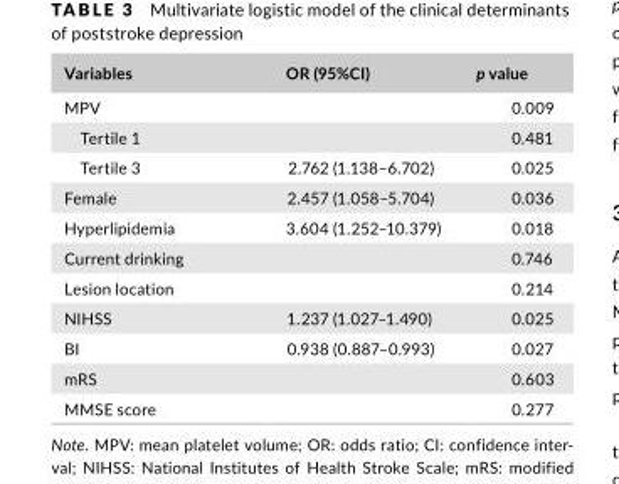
<table><thead><tr><td>Variables</td><td>OR (95%CI)</td><td>p value</td></tr></thead><tbody><tr><td>MPV</td><td></td><td>0.009</td></tr><tr><td>Tertile 1</td><td></td><td>0.481</td></tr><tr><td>Tertile 3</td><td>2.762 (1.138–6.702)</td><td>0.025</td></tr><tr><td>Female</td><td>2.457 (1.058–5.704)</td><td>0.036</td></tr><tr><td>Hyperlipidemia</td><td>3.604 (1.252–10.379)</td><td>0.018</td></tr><tr><td>Current drinking</td><td></td><td>0.746</td></tr><tr><td>Lesion location</td><td></td><td>0.214</td></tr><tr><td>NIHSS</td><td>1.237 (1.027–1.490)</td><td>0.025</td></tr><tr><td>BI</td><td>0.938 (0.887–0.993)</td><td>0.027</td></tr><tr><td>mRS</td><td></td><td>0.603</td></tr><tr><td>MMSE score</td><td></td><td>0.277</td></tr></tbody></table>